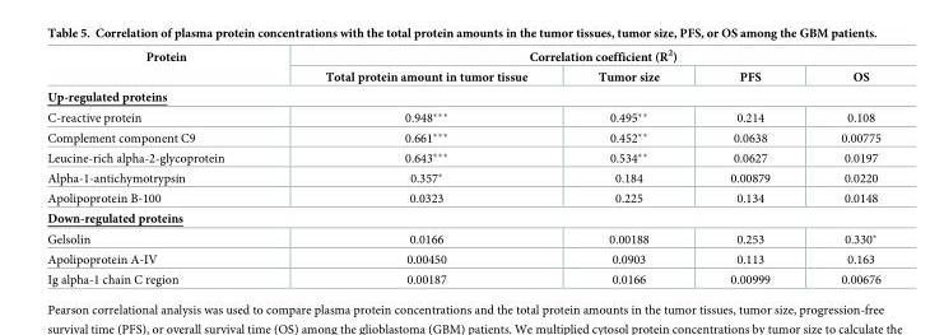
<table><thead><tr><td rowspan="2">Protein</td><td colspan="4">Correlation coefficient (R<sup>2</sup>)</td></tr><tr><td>Total protein amount in tumor tissue</td><td>Tumor size</td><td>PFS</td><td>OS</td></tr></thead><tbody><tr><td colspan="5">Up-regulated proteins</td></tr><tr><td>C-reactive protein</td><td>0.948***</td><td>0.495**</td><td>0.214</td><td>0.108</td></tr><tr><td>Complement component C9</td><td>0.661***</td><td>0.452**</td><td>0.0638</td><td>0.00775</td></tr><tr><td>Leucine-rich alpha-2-glycoprotein</td><td>0.643***</td><td>0.534**</td><td>0.0627</td><td>0.0197</td></tr><tr><td>Alpha-1-antichymotrypsin</td><td>0.357*</td><td>0.184</td><td>0.00879</td><td>0.0220</td></tr><tr><td>Apolipoprotein B-100</td><td>0.0323</td><td>0.225</td><td>0.134</td><td>0.0148</td></tr><tr><td colspan="5">Down-regulated proteins</td></tr><tr><td>Gelsolin</td><td>0.0166</td><td>0.00188</td><td>0.253</td><td>0.330*</td></tr><tr><td>Apolipoprotein A-IV</td><td>0.00450</td><td>0.0903</td><td>0.113</td><td>0.163</td></tr><tr><td>Ig alpha-1 chain C region</td><td>0.00187</td><td>0.0166</td><td>0.00999</td><td>0.00676</td></tr></tbody></table>